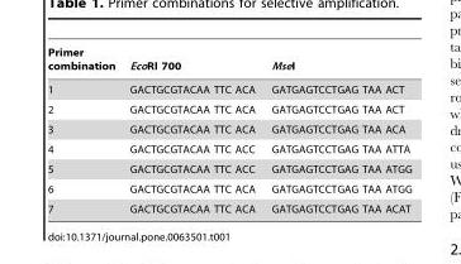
<table><thead><tr><td>Primer combination</td><td>EcoRI 700</td><td>MseI</td></tr></thead><tbody><tr><td>1</td><td>GACTGCGTACAA TTC ACA</td><td>GATGAGTCCTGAG TAA ACT</td></tr><tr><td>2</td><td>GACTGCGTACAA TTC ACA</td><td>GATGAGTCCTGAG TAA ACT</td></tr><tr><td>3</td><td>GACTGCGTACAA TTC ACA</td><td>GATGAGTCCTGAG TAA ACA</td></tr><tr><td>4</td><td>GACTGCGTACAA TTC ACC</td><td>GATGAGTCCTGAG TAA ATTA</td></tr><tr><td>5</td><td>GACTGCGTACAA TTC ACC</td><td>GATGAGTCCTGAG TAA ATGG</td></tr><tr><td>6</td><td>GACTGCGTACAA TTC ACA</td><td>GATGAGTCCTGAG TAA ATGG</td></tr><tr><td>7</td><td>GACTGCGTACAA TTC ACA</td><td>GATGAGTCCTGAG TAA ACAT</td></tr></tbody></table>